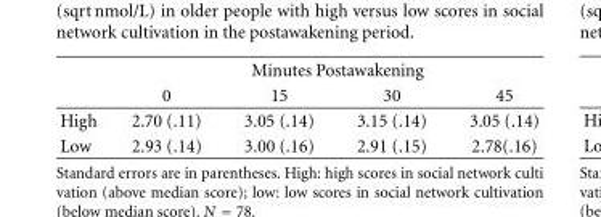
<table><thead><tr><td rowspan="2"></td><td colspan="4">Minutes Postawakening</td></tr><tr><td>0</td><td>15</td><td>30</td><td>45</td></tr></thead><tbody><tr><td>High</td><td>2.70 (.11)</td><td>3.05 (.14)</td><td>3.15 (.14)</td><td>3.05 (.14)</td></tr><tr><td>Low</td><td>2.93 (.14)</td><td>3.00 (.16)</td><td>2.91 (.15)</td><td>2.78(.16)</td></tr></tbody></table>